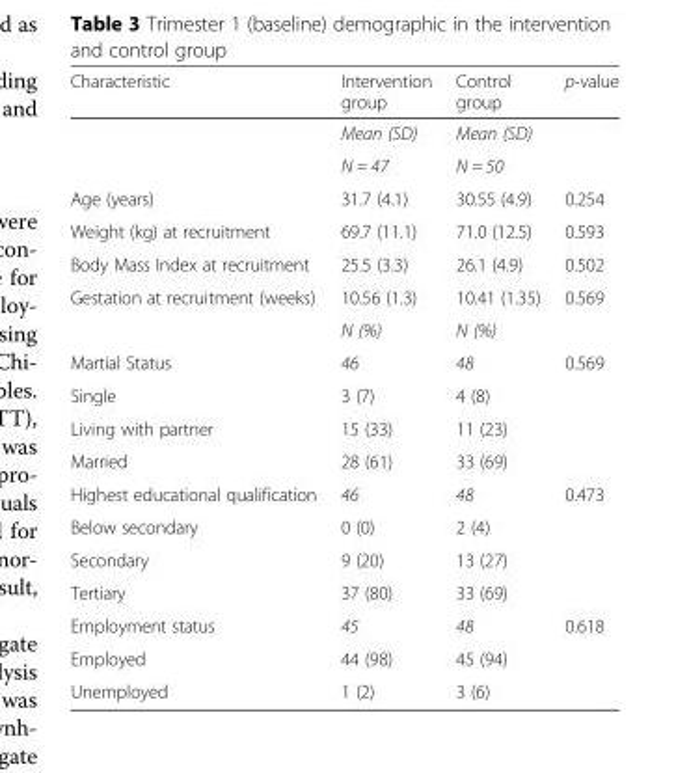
<table><thead><tr><td>Characteristic</td><td>Intervention group</td><td>Control group</td><td>p-value</td></tr></thead><tbody><tr><td rowspan="2"></td><td>Mean (SD)</td><td>Mean (SD)</td><td rowspan="2"></td></tr><tr><td>N = 47</td><td>N = 50</td></tr><tr><td>Age (years)</td><td>31.7 (4.1)</td><td>30.55 (4.9)</td><td>0.254</td></tr><tr><td>Weight (kg) at recruitment</td><td>69.7 (11.1)</td><td>71.0 (12.5)</td><td>0.593</td></tr><tr><td>Body Mass Index at recruitment</td><td>25.5 (3.3)</td><td>26.1 (4.9)</td><td>0.502</td></tr><tr><td rowspan="2">Gestation at recruitment (weeks)</td><td>10.56 (1.3)</td><td>10.41 (1.35)</td><td>0.569</td></tr><tr><td>N (%)</td><td>N (%)</td><td></td></tr><tr><td>Martial Status</td><td>46</td><td>48</td><td>0.569</td></tr><tr><td>Single</td><td>3 (7)</td><td>4 (8)</td><td></td></tr><tr><td>Living with partner</td><td>15 (33)</td><td>11 (23)</td><td></td></tr><tr><td>Married</td><td>28 (61)</td><td>33 (69)</td><td></td></tr><tr><td>Highest educational qualification</td><td>46</td><td>48</td><td>0.473</td></tr><tr><td>Below secondary</td><td>0 (0)</td><td>2 (4)</td><td></td></tr><tr><td>Secondary</td><td>9 (20)</td><td>13 (27)</td><td></td></tr><tr><td>Tertiary</td><td>37 (80)</td><td>33 (69)</td><td></td></tr><tr><td>Employment status</td><td>45</td><td>48</td><td>0.618</td></tr><tr><td>Employed</td><td>44 (98)</td><td>45 (94)</td><td></td></tr><tr><td>Unemployed</td><td>1 (2)</td><td>3 (6)</td><td></td></tr></tbody></table>